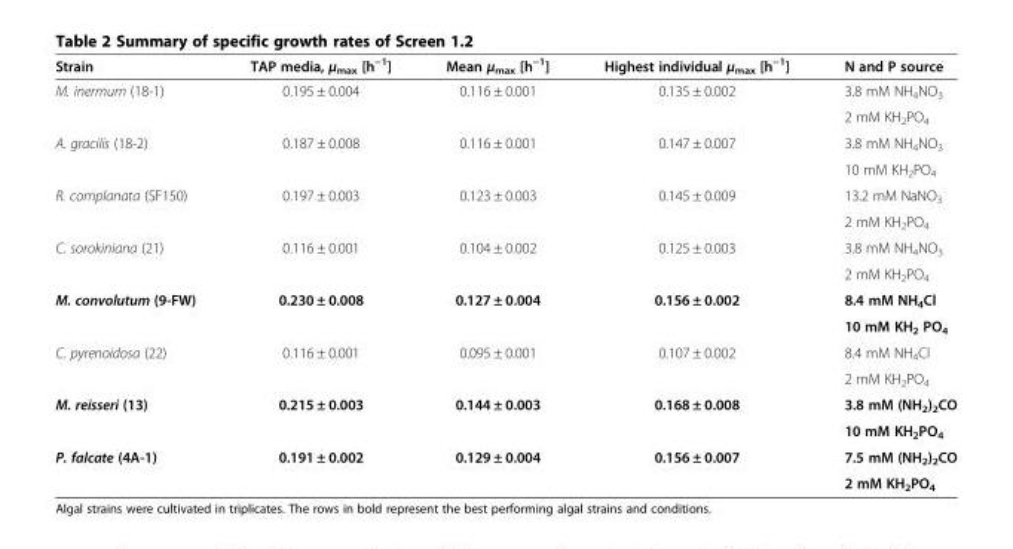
<table><thead><tr><td>Strain</td><td>TAP media, μ<sub>max</sub> [h<sup>−1</sup>]</td><td>Mean μ<sub>max</sub> [h<sup>−1</sup>]</td><td>Highest individual μ<sub>max</sub> [h<sup>−1</sup>]</td><td>N and P source</td></tr></thead><tbody><tr><td rowspan="2">M. inermum (18-1)</td><td rowspan="2">0.195 ± 0.004</td><td rowspan="2">0.116 ± 0.001</td><td rowspan="2">0.135 ± 0.002</td><td>3.8 mM NH<sub>4</sub>NO<sub>3</sub></td></tr><tr><td>2 mM KH<sub>2</sub>PO<sub>4</sub></td></tr><tr><td rowspan="2">A. gracilis (18-2)</td><td rowspan="2">0.187 ± 0.008</td><td rowspan="2">0.116 ± 0.001</td><td rowspan="2">0.147 ± 0.007</td><td>3.8 mM NH<sub>4</sub>NO<sub>3</sub></td></tr><tr><td>10 mM KH<sub>2</sub>PO<sub>4</sub></td></tr><tr><td rowspan="2">R. complanata (SF150)</td><td rowspan="2">0.197 ± 0.003</td><td rowspan="2">0.123 ± 0.003</td><td rowspan="2">0.145 ± 0.009</td><td>13.2 mM NaNO<sub>3</sub></td></tr><tr><td>2 mM KH<sub>2</sub>PO<sub>4</sub></td></tr><tr><td rowspan="2">C. sorokiniana (21)</td><td rowspan="2">0.116 ± 0.001</td><td rowspan="2">0.104 ± 0.002</td><td rowspan="2">0.125 ± 0.003</td><td>3.8 mM NH<sub>4</sub>NO<sub>3</sub></td></tr><tr><td>2 mM KH<sub>2</sub>PO<sub>4</sub></td></tr><tr><td rowspan="2">M. convolutum (9-FW)</td><td rowspan="2">0.230 ± 0.008</td><td rowspan="2">0.127 ± 0.004</td><td rowspan="2">0.156 ± 0.002</td><td>8.4 mM NH<sub>4</sub>Cl</td></tr><tr><td>10 mM KH<sub>2</sub> PO<sub>4</sub></td></tr><tr><td rowspan="2">C. pyrenoidosa (22)</td><td rowspan="2">0.116 ± 0.001</td><td rowspan="2">0.095 ± 0.001</td><td rowspan="2">0.107 ± 0.002</td><td>8.4 mM NH<sub>4</sub>Cl</td></tr><tr><td>2 mM KH<sub>2</sub>PO<sub>4</sub></td></tr><tr><td rowspan="2">M. reisseri (13)</td><td rowspan="2">0.215 ± 0.003</td><td rowspan="2">0.144 ± 0.003</td><td rowspan="2">0.168 ± 0.008</td><td>3.8 mM (NH<sub>2</sub>)<sub>2</sub>CO</td></tr><tr><td>10 mM KH<sub>2</sub>PO<sub>4</sub></td></tr><tr><td rowspan="2">P. falcate (4A-1)</td><td rowspan="2">0.191 ± 0.002</td><td rowspan="2">0.129 ± 0.004</td><td rowspan="2">0.156 ± 0.007</td><td>7.5 mM (NH<sub>2</sub>)<sub>2</sub>CO</td></tr><tr><td>2 mM KH<sub>2</sub>PO<sub>4</sub></td></tr></tbody></table>